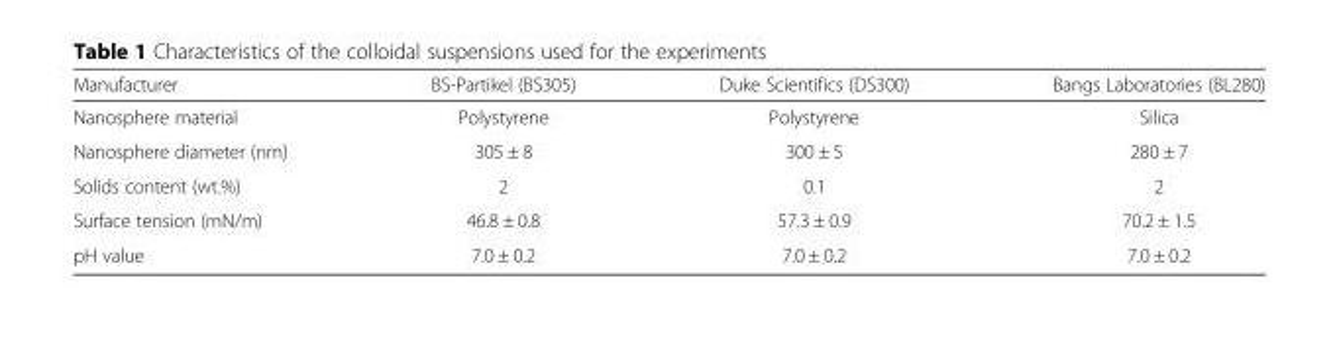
<table><thead><tr><td>Manufacturer</td><td>BS-Partikel (BS305)</td><td>Duke Scientifics (DS300)</td><td>Bangs Laboratories (BL280)</td></tr></thead><tbody><tr><td>Nanosphere material</td><td>Polystyrene</td><td>Polystyrene</td><td>Silica</td></tr><tr><td>Nanosphere diameter (nm)</td><td>305 ± 8</td><td>300 ± 5</td><td>280 ± 7</td></tr><tr><td>Solids content (wt.%)</td><td>2</td><td>0.1</td><td>2</td></tr><tr><td>Surface tension (mN/m)</td><td>46.8 ± 0.8</td><td>57.3 ± 0.9</td><td>70.2 ± 1.5</td></tr><tr><td>pH value</td><td>7.0 ± 0.2</td><td>7.0 ± 0.2</td><td>7.0 ± 0.2</td></tr></tbody></table>